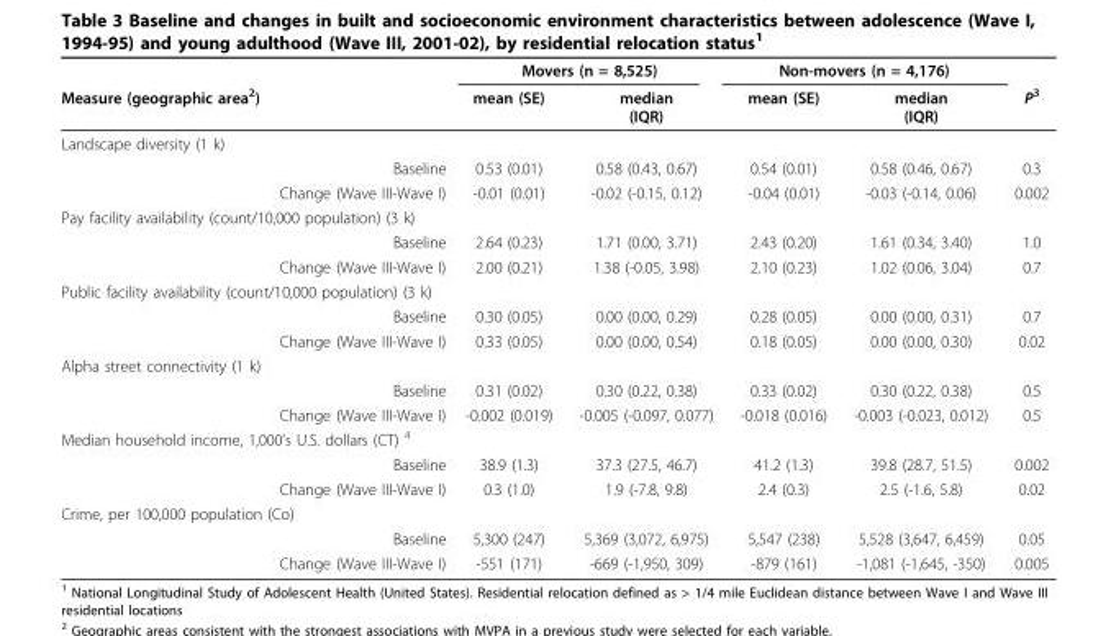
<table><thead><tr><td rowspan="2">Measure (geographic area<sup>2</sup>)</td><td colspan="2">Movers (n = 8,525)</td><td colspan="2">Non-movers (n = 4,176)</td><td rowspan="2">P<sup>3</sup></td></tr><tr><td>mean (SE)</td><td>median (IQR)</td><td>mean (SE)</td><td>median (IQR)</td></tr></thead><tbody><tr><td colspan="6">Landscape diversity (1 k)</td></tr><tr><td>Baseline</td><td>0.53 (0.01)</td><td>0.58 (0.43, 0.67)</td><td>0.54 (0.01)</td><td>0.58 (0.46, 0.67)</td><td>0.3</td></tr><tr><td>Change (Wave III-Wave I)</td><td>-0.01 (0.01)</td><td>-0.02 (-0.15, 0.12)</td><td>-0.04 (0.01)</td><td>-0.03 (-0.14, 0.06)</td><td>0.002</td></tr><tr><td colspan="6">Pay facility availability (count/10,000 population) (3 k)</td></tr><tr><td>Baseline</td><td>2.64 (0.23)</td><td>1.71 (0.00, 3.71)</td><td>2.43 (0.20)</td><td>1.61 (0.34, 3.40)</td><td>1.0</td></tr><tr><td>Change (Wave III-Wave I)</td><td>2.00 (0.21)</td><td>1.38 (-0.05, 3.98)</td><td>2.10 (0.23)</td><td>1.02 (0.06, 3.04)</td><td>0.7</td></tr><tr><td colspan="6">Public facility availability (count/10,000 population) (3 k)</td></tr><tr><td>Baseline</td><td>0.30 (0.05)</td><td>0.00 (0.00, 0.29)</td><td>0.28 (0.05)</td><td>0.00 (0.00, 0.31)</td><td>0.7</td></tr><tr><td>Change (Wave III-Wave I)</td><td>0.33 (0.05)</td><td>0.00 (0.00, 0.54)</td><td>0.18 (0.05)</td><td>0.00 (0.00, 0.30)</td><td>0.02</td></tr><tr><td colspan="6">Alpha street connectivity (1 k)</td></tr><tr><td>Baseline</td><td>0.31 (0.02)</td><td>0.30 (0.22, 0.38)</td><td>0.33 (0.02)</td><td>0.30 (0.22, 0.38)</td><td>0.5</td></tr><tr><td>Change (Wave III-Wave I)</td><td>-0.002 (0.019)</td><td>-0.005 (-0.097, 0.077)</td><td>-0.018 (0.016)</td><td>-0.003 (-0.023, 0.012)</td><td>0.5</td></tr><tr><td colspan="6">Median household income, 1,000’s U.S. dollars (CT) <sup>4</sup></td></tr><tr><td>Baseline</td><td>38.9 (1.3)</td><td>37.3 (27.5, 46.7)</td><td>41.2 (1.3)</td><td>39.8 (28.7, 51.5)</td><td>0.002</td></tr><tr><td>Change (Wave III-Wave I)</td><td>0.3 (1.0)</td><td>1.9 (-7.8, 9.8)</td><td>2.4 (0.3)</td><td>2.5 (-1.6, 5.8)</td><td>0.02</td></tr><tr><td colspan="6">Crime, per 100,000 population (Co)</td></tr><tr><td>Baseline</td><td>5,300 (247)</td><td>5,369 (3,072, 6,975)</td><td>5,547 (238)</td><td>5,528 (3,647, 6,459)</td><td>0.05</td></tr><tr><td>Change (Wave III-Wave I)</td><td>-551 (171)</td><td>-669 (-1,950, 309)</td><td>-879 (161)</td><td>-1,081 (-1,645, -350)</td><td>0.005</td></tr></tbody></table>